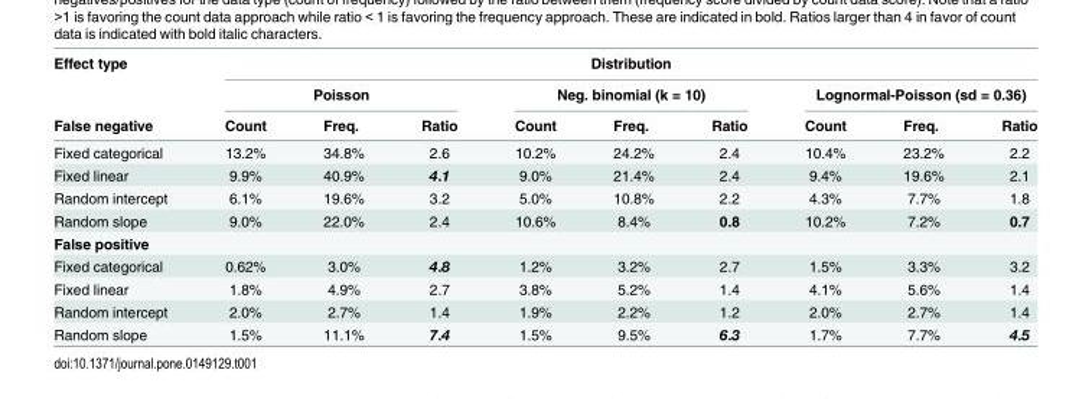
<table><thead><tr><td rowspan="3">Effect type False negative</td><td colspan="9">Distribution</td></tr><tr><td colspan="3">Poisson</td><td colspan="3">Neg. binomial (k = 10)</td><td colspan="3">Lognormal-Poisson (sd = 0.36)</td></tr><tr><td>Count</td><td>Freq.</td><td>Ratio</td><td>Count</td><td>Freq.</td><td>Ratio</td><td>Count</td><td>Freq.</td><td>Ratio</td></tr></thead><tbody><tr><td>Fixed categorical</td><td>13.2%</td><td>34.8%</td><td>2.6</td><td>10.2%</td><td>24.2%</td><td>2.4</td><td>10.4%</td><td>23.2%</td><td>2.2</td></tr><tr><td>Fixed linear</td><td>9.9%</td><td>40.9%</td><td>4.1</td><td>9.0%</td><td>21.4%</td><td>2.4</td><td>9.4%</td><td>19.6%</td><td>2.1</td></tr><tr><td>Random intercept</td><td>6.1%</td><td>19.6%</td><td>3.2</td><td>5.0%</td><td>10.8%</td><td>2.2</td><td>4.3%</td><td>7.7%</td><td>1.8</td></tr><tr><td>Random slope</td><td>9.0%</td><td>22.0%</td><td>2.4</td><td>10.6%</td><td>8.4%</td><td>0.8</td><td>10.2%</td><td>7.2%</td><td>0.7</td></tr><tr><td colspan="10">False positive</td></tr><tr><td>Fixed categorical</td><td>0.62%</td><td>3.0%</td><td>4.8</td><td>1.2%</td><td>3.2%</td><td>2.7</td><td>1.5%</td><td>3.3%</td><td>3.2</td></tr><tr><td>Fixed linear</td><td>1.8%</td><td>4.9%</td><td>2.7</td><td>3.8%</td><td>5.2%</td><td>1.4</td><td>4.1%</td><td>5.6%</td><td>1.4</td></tr><tr><td>Random intercept</td><td>2.0%</td><td>2.7%</td><td>1.4</td><td>1.9%</td><td>2.2%</td><td>1.2</td><td>2.0%</td><td>2.7%</td><td>1.4</td></tr><tr><td>Random slope</td><td>1.5%</td><td>11.1%</td><td>7.4</td><td>1.5%</td><td>9.5%</td><td>6.3</td><td>1.7%</td><td>7.7%</td><td>4.5</td></tr></tbody></table>